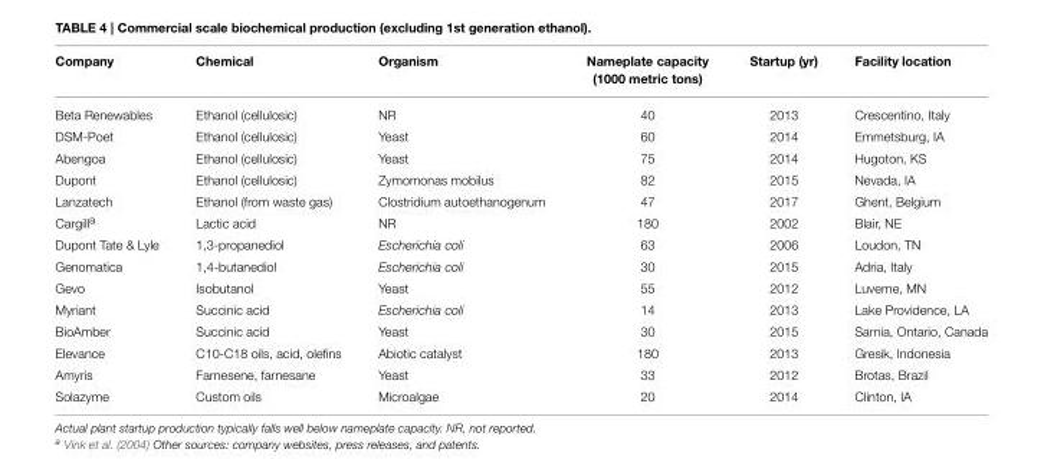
<table><thead><tr><td>Company</td><td>Chemical</td><td>Organism</td><td>Nameplate capacity (1000 metric tons)</td><td>Startup (yr)</td><td>Facility location</td></tr></thead><tbody><tr><td>Beta Renewables</td><td>Ethanol (cellulosic)</td><td>NR</td><td>40</td><td>2013</td><td>Crescentino, Italy</td></tr><tr><td>DSM-Poet</td><td>Ethanol (cellulosic)</td><td>Yeast</td><td>60</td><td>2014</td><td>Emmetsburg, IA</td></tr><tr><td>Abengoa</td><td>Ethanol (cellulosic)</td><td>Yeast</td><td>75</td><td>2014</td><td>Hugoton, KS</td></tr><tr><td>Dupont</td><td>Ethanol (cellulosic)</td><td>Zymomonas mobilus</td><td>82</td><td>2015</td><td>Nevada, IA</td></tr><tr><td>Lanzatech</td><td>Ethanol (from waste gas)</td><td>Clostridium autoethanogenum</td><td>47</td><td>2017</td><td>Ghent, Belgium</td></tr><tr><td>Cargill<sup>a</sup></td><td>Lactic acid</td><td>NR</td><td>180</td><td>2002</td><td>Blair, NE</td></tr><tr><td>Dupont Tate &amp; Lyle</td><td>1,3-propanediol</td><td>Escherichia coli</td><td>63</td><td>2006</td><td>Loudon, TN</td></tr><tr><td>Genomatica</td><td>1,4-butanediol</td><td>Escherichia coli</td><td>30</td><td>2015</td><td>Adria, Italy</td></tr><tr><td>Gevo</td><td>Isobutanol</td><td>Yeast</td><td>55</td><td>2012</td><td>Luverne, MN</td></tr><tr><td>Myriant</td><td>Succinic acid</td><td>Escherichia coli</td><td>14</td><td>2013</td><td>Lake Providence, LA</td></tr><tr><td>BioAmber</td><td>Succinic acid</td><td>Yeast</td><td>30</td><td>2015</td><td>Sarnia, Ontario, Canada</td></tr><tr><td>Elevance</td><td>C10-C18 oils, acid, olefins</td><td>Abiotic catalyst</td><td>180</td><td>2013</td><td>Gresik, Indonesia</td></tr><tr><td>Amyris</td><td>Farnesene, farnesane</td><td>Yeast</td><td>33</td><td>2012</td><td>Brotas, Brazil</td></tr><tr><td>Solazyme</td><td>Custom oils</td><td>Microalgae</td><td>20</td><td>2014</td><td>Clinton, IA</td></tr></tbody></table>